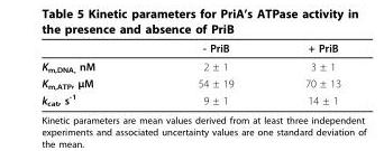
<table><thead><tr><td></td><td>- PriB</td><td>+ PriB</td></tr></thead><tbody><tr><td>K<sub>m,DNA,</sub> nM</td><td>2 ± 1</td><td>3 ± 1</td></tr><tr><td>K<sub>m,ATP</sub>, μM</td><td>54 ± 19</td><td>70 ± 13</td></tr><tr><td>k<sub>cat</sub>, s<sup>-1</sup></td><td>9 ± 1</td><td>14 ± 1</td></tr></tbody></table>